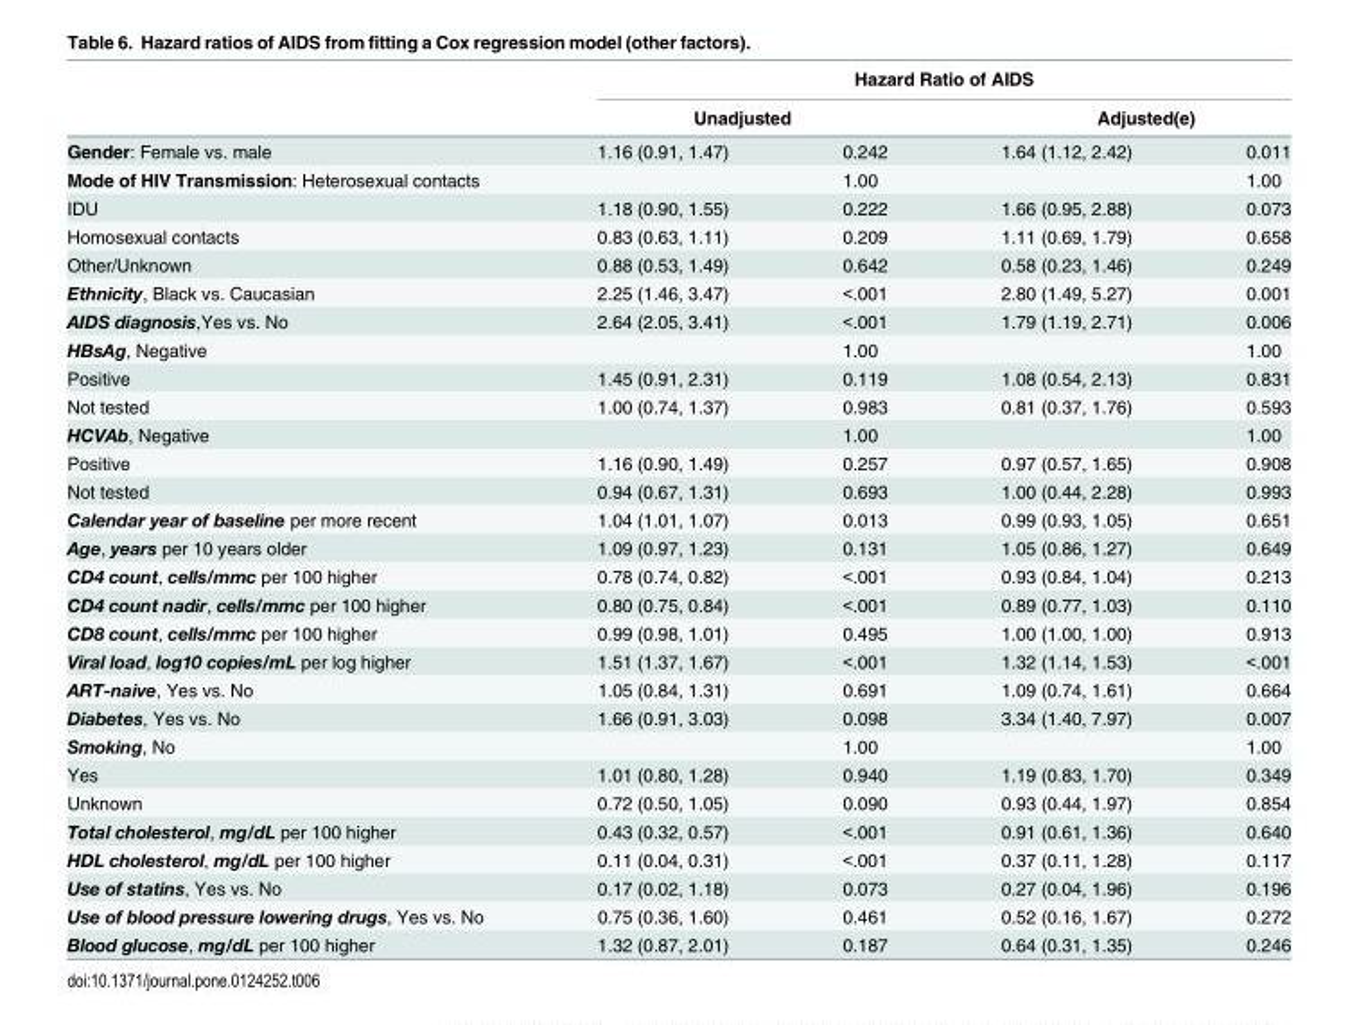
<table><thead><tr><td rowspan="3">Gender: Female vs. male</td><td colspan="4">Hazard Ratio of AIDS</td></tr><tr><td colspan="2">Unadjusted</td><td colspan="2">Adjusted(e)</td></tr><tr><td>1.16 (0.91, 1.47)</td><td>0.242</td><td>1.64 (1.12, 2.42)</td><td>0.011</td></tr></thead><tbody><tr><td>Mode of HIV Transmission: Heterosexual contacts</td><td></td><td>1.00</td><td></td><td>1.00</td></tr><tr><td>IDU</td><td>1.18 (0.90, 1.55)</td><td>0.222</td><td>1.66 (0.95, 2.88)</td><td>0.073</td></tr><tr><td>Homosexual contacts</td><td>0.83 (0.63, 1.11)</td><td>0.209</td><td>1.11 (0.69, 1.79)</td><td>0.658</td></tr><tr><td>Other/Unknown</td><td>0.88 (0.53, 1.49)</td><td>0.642</td><td>0.58 (0.23, 1.46)</td><td>0.249</td></tr><tr><td>Ethnicity, Black vs. Caucasian</td><td>2.25 (1.46, 3.47)</td><td>&lt;.001</td><td>2.80 (1.49, 5.27)</td><td>0.001</td></tr><tr><td>AIDS diagnosis,Yes vs. No</td><td>2.64 (2.05, 3.41)</td><td>&lt;.001</td><td>1.79 (1.19, 2.71)</td><td>0.006</td></tr><tr><td>HBsAg, Negative</td><td></td><td>1.00</td><td></td><td>1.00</td></tr><tr><td>Positive</td><td>1.45 (0.91, 2.31)</td><td>0.119</td><td>1.08 (0.54, 2.13)</td><td>0.831</td></tr><tr><td>Not tested</td><td>1.00 (0.74, 1.37)</td><td>0.983</td><td>0.81 (0.37, 1.76)</td><td>0.593</td></tr><tr><td>HCVAb, Negative</td><td></td><td>1.00</td><td></td><td>1.00</td></tr><tr><td>Positive</td><td>1.16 (0.90, 1.49)</td><td>0.257</td><td>0.97 (0.57, 1.65)</td><td>0.908</td></tr><tr><td>Not tested</td><td>0.94 (0.67, 1.31)</td><td>0.693</td><td>1.00 (0.44, 2.28)</td><td>0.993</td></tr><tr><td>Calendar year of baseline per more recent</td><td>1.04 (1.01, 1.07)</td><td>0.013</td><td>0.99 (0.93, 1.05)</td><td>0.651</td></tr><tr><td>Age, years per 10 years older</td><td>1.09 (0.97, 1.23)</td><td>0.131</td><td>1.05 (0.86, 1.27)</td><td>0.649</td></tr><tr><td>CD4 count, cells/mmc per 100 higher</td><td>0.78 (0.74, 0.82)</td><td>&lt;.001</td><td>0.93 (0.84, 1.04)</td><td>0.213</td></tr><tr><td>CD4 count nadir, cells/mmc per 100 higher</td><td>0.80 (0.75, 0.84)</td><td>&lt;.001</td><td>0.89 (0.77, 1.03)</td><td>0.110</td></tr><tr><td>CD8 count, cells/mmc per 100 higher</td><td>0.99 (0.98, 1.01)</td><td>0.495</td><td>1.00 (1.00, 1.00)</td><td>0.913</td></tr><tr><td>Viral load, log10 copies/mL per log higher</td><td>1.51 (1.37, 1.67)</td><td>&lt;.001</td><td>1.32 (1.14, 1.53)</td><td>&lt;.001</td></tr><tr><td>ART-naive, Yes vs. No</td><td>1.05 (0.84, 1.31)</td><td>0.691</td><td>1.09 (0.74, 1.61)</td><td>0.664</td></tr><tr><td>Diabetes, Yes vs. No</td><td>1.66 (0.91, 3.03)</td><td>0.098</td><td>3.34 (1.40, 7.97)</td><td>0.007</td></tr><tr><td>Smoking, No</td><td></td><td>1.00</td><td></td><td>1.00</td></tr><tr><td>Yes</td><td>1.01 (0.80, 1.28)</td><td>0.940</td><td>1.19 (0.83, 1.70)</td><td>0.349</td></tr><tr><td>Unknown</td><td>0.72 (0.50, 1.05)</td><td>0.090</td><td>0.93 (0.44, 1.97)</td><td>0.854</td></tr><tr><td>Total cholesterol, mg/dL per 100 higher</td><td>0.43 (0.32, 0.57)</td><td>&lt;.001</td><td>0.91 (0.61, 1.36)</td><td>0.640</td></tr><tr><td>HDL cholesterol, mg/dL per 100 higher</td><td>0.11 (0.04, 0.31)</td><td>&lt;.001</td><td>0.37 (0.11, 1.28)</td><td>0.117</td></tr><tr><td>Use of statins, Yes vs. No</td><td>0.17 (0.02, 1.18)</td><td>0.073</td><td>0.27 (0.04, 1.96)</td><td>0.196</td></tr><tr><td>Use of blood pressure lowering drugs, Yes vs. No</td><td>0.75 (0.36, 1.60)</td><td>0.461</td><td>0.52 (0.16, 1.67)</td><td>0.272</td></tr><tr><td>Blood glucose, mg/dL per 100 higher</td><td>1.32 (0.87, 2.01)</td><td>0.187</td><td>0.64 (0.31, 1.35)</td><td>0.246</td></tr></tbody></table>